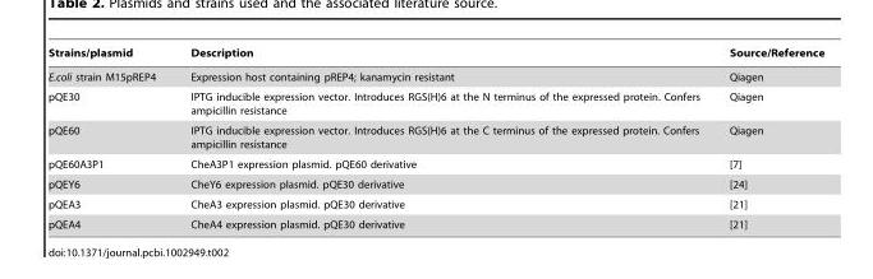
<table><thead><tr><td>Strains/plasmid</td><td>Description</td><td>Source/Reference</td></tr></thead><tbody><tr><td>E.coli strain M15pREP4</td><td>Expression host containing pREP4; kanamycin resistant</td><td>Qiagen</td></tr><tr><td>pQE30</td><td>IPTG inducible expression vector. Introduces RGS(H)6 at the N terminus of the expressed protein. Confers ampicillin resistance</td><td>Qiagen</td></tr><tr><td>pQE60</td><td>IPTG inducible expression vector. Introduces RGS(H)6 at the C terminus of the expressed protein. Confers ampicillin resistance</td><td>Qiagen</td></tr><tr><td>pQE60A3P1</td><td>CheA3P1 expression plasmid. pQE60 derivative</td><td>[7]</td></tr><tr><td>pQEY6</td><td>CheY6 expression plasmid. pQE30 derivative</td><td>[24]</td></tr><tr><td>pQEA3</td><td>CheA3 expression plasmid. pQE30 derivative</td><td>[21]</td></tr><tr><td>pQEA4</td><td>CheA4 expression plasmid. pQE30 derivative</td><td>[21]</td></tr></tbody></table>